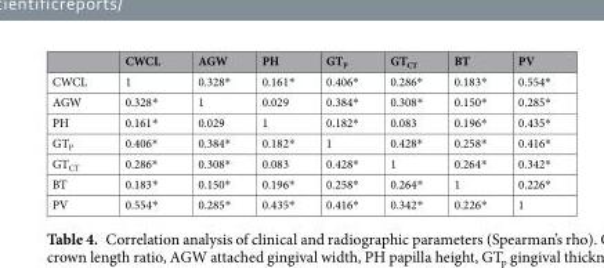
<table><thead><tr><td></td><td>CWCL</td><td>AGW</td><td>PH</td><td>GT<sub>P</sub></td><td>GT<sub>CT</sub></td><td>BT</td><td>PV</td></tr></thead><tbody><tr><td>CWCL</td><td>1</td><td>0.328*</td><td>0.161*</td><td>0.406*</td><td>0.286*</td><td>0.183*</td><td>0.554*</td></tr><tr><td>AGW</td><td>0.328*</td><td>1</td><td>0.029</td><td>0.384*</td><td>0.308*</td><td>0.150*</td><td>0.285*</td></tr><tr><td>PH</td><td>0.161*</td><td>0.029</td><td>1</td><td>0.182*</td><td>0.083</td><td>0.196*</td><td>0.435*</td></tr><tr><td>GT<sub>P</sub></td><td>0.406*</td><td>0.384*</td><td>0.182*</td><td>1</td><td>0.428*</td><td>0.258*</td><td>0.416*</td></tr><tr><td>GT<sub>CT</sub></td><td>0.286*</td><td>0.308*</td><td>0.083</td><td>0.428*</td><td>1</td><td>0.264*</td><td>0.342*</td></tr><tr><td>BT</td><td>0.183*</td><td>0.150*</td><td>0.196*</td><td>0.258*</td><td>0.264*</td><td>1</td><td>0.226*</td></tr><tr><td>PV</td><td>0.554*</td><td>0.285*</td><td>0.435*</td><td>0.416*</td><td>0.342*</td><td>0.226*</td><td>1</td></tr></tbody></table>